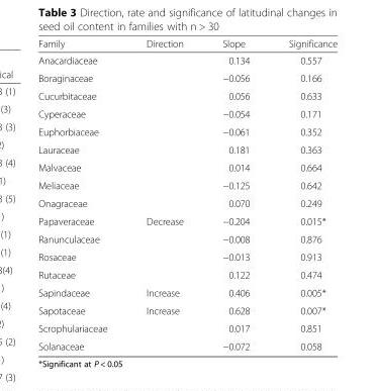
<table><thead><tr><td>Family</td><td>Direction</td><td>Slope</td><td>Significance</td></tr></thead><tbody><tr><td>Anacardiaceae</td><td></td><td>0.134</td><td>0.557</td></tr><tr><td>Boraginaceae</td><td></td><td>−0.056</td><td>0.166</td></tr><tr><td>Cucurbitaceae</td><td></td><td>0.056</td><td>0.633</td></tr><tr><td>Cyperaceae</td><td></td><td>−0.054</td><td>0.171</td></tr><tr><td>Euphorbiaceae</td><td></td><td>−0.061</td><td>0.352</td></tr><tr><td>Lauraceae</td><td></td><td>0.181</td><td>0.363</td></tr><tr><td>Malvaceae</td><td></td><td>0.014</td><td>0.664</td></tr><tr><td>Meliaceae</td><td></td><td>−0.125</td><td>0.642</td></tr><tr><td>Onagraceae</td><td></td><td>0.070</td><td>0.249</td></tr><tr><td>Papaveraceae</td><td>Decrease</td><td>−0.204</td><td>0.015*</td></tr><tr><td>Ranunculaceae</td><td></td><td>−0.008</td><td>0.876</td></tr><tr><td>Rosaceae</td><td></td><td>−0.013</td><td>0.913</td></tr><tr><td>Rutaceae</td><td></td><td>0.122</td><td>0.474</td></tr><tr><td>Sapindaceae</td><td>Increase</td><td>0.406</td><td>0.005*</td></tr><tr><td>Sapotaceae</td><td>Increase</td><td>0.628</td><td>0.007*</td></tr><tr><td>Scrophulariaceae</td><td></td><td>0.017</td><td>0.851</td></tr><tr><td>Solanaceae</td><td></td><td>−0.072</td><td>0.058</td></tr></tbody></table>